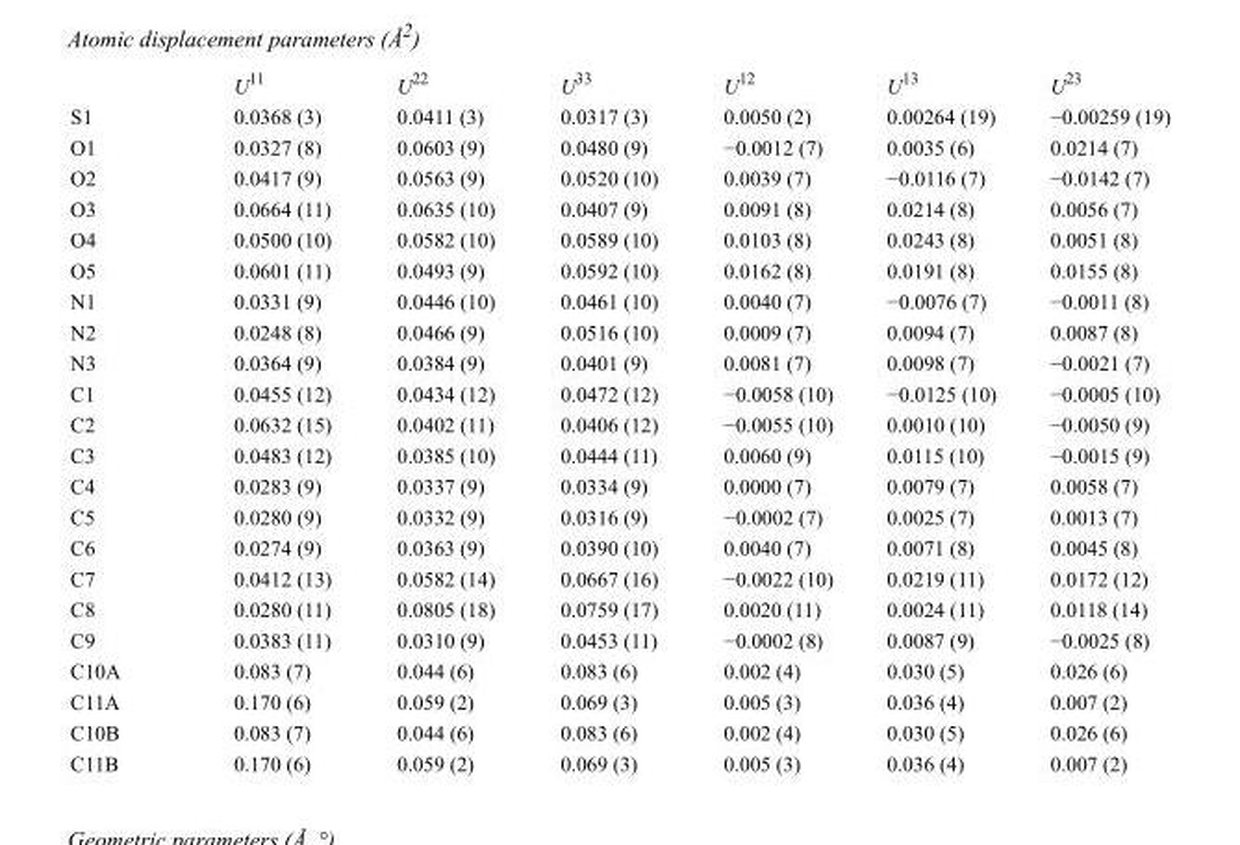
<table><thead><tr><td></td><td>U<sup>11</sup></td><td>U<sup>22</sup></td><td>U<sup>33</sup></td><td>U<sup>12</sup></td><td>U<sup>13</sup></td><td>U<sup>23</sup></td></tr></thead><tbody><tr><td>S1</td><td>0.0368 (3)</td><td>0.0411 (3)</td><td>0.0317 (3)</td><td>0.0050 (2)</td><td>0.00264 (19)</td><td>−0.00259 (19)</td></tr><tr><td>O1</td><td>0.0327 (8)</td><td>0.0603 (9)</td><td>0.0480 (9)</td><td>−0.0012 (7)</td><td>0.0035 (6)</td><td>0.0214 (7)</td></tr><tr><td>O2</td><td>0.0417 (9)</td><td>0.0563 (9)</td><td>0.0520 (10)</td><td>0.0039 (7)</td><td>−0.0116 (7)</td><td>−0.0142 (7)</td></tr><tr><td>O3</td><td>0.0664 (11)</td><td>0.0635 (10)</td><td>0.0407 (9)</td><td>0.0091 (8)</td><td>0.0214 (8)</td><td>0.0056 (7)</td></tr><tr><td>O4</td><td>0.0500 (10)</td><td>0.0582 (10)</td><td>0.0589 (10)</td><td>0.0103 (8)</td><td>0.0243 (8)</td><td>0.0051 (8)</td></tr><tr><td>O5</td><td>0.0601 (11)</td><td>0.0493 (9)</td><td>0.0592 (10)</td><td>0.0162 (8)</td><td>0.0191 (8)</td><td>0.0155 (8)</td></tr><tr><td>N1</td><td>0.0331 (9)</td><td>0.0446 (10)</td><td>0.0461 (10)</td><td>0.0040 (7)</td><td>−0.0076 (7)</td><td>−0.0011 (8)</td></tr><tr><td>N2</td><td>0.0248 (8)</td><td>0.0466 (9)</td><td>0.0516 (10)</td><td>0.0009 (7)</td><td>0.0094 (7)</td><td>0.0087 (8)</td></tr><tr><td>N3</td><td>0.0364 (9)</td><td>0.0384 (9)</td><td>0.0401 (9)</td><td>0.0081 (7)</td><td>0.0098 (7)</td><td>−0.0021 (7)</td></tr><tr><td>C1</td><td>0.0455 (12)</td><td>0.0434 (12)</td><td>0.0472 (12)</td><td>−0.0058 (10)</td><td>−0.0125 (10)</td><td>−0.0005 (10)</td></tr><tr><td>C2</td><td>0.0632 (15)</td><td>0.0402 (11)</td><td>0.0406 (12)</td><td>−0.0055 (10)</td><td>0.0010 (10)</td><td>−0.0050 (9)</td></tr><tr><td>C3</td><td>0.0483 (12)</td><td>0.0385 (10)</td><td>0.0444 (11)</td><td>0.0060 (9)</td><td>0.0115 (10)</td><td>−0.0015 (9)</td></tr><tr><td>C4</td><td>0.0283 (9)</td><td>0.0337 (9)</td><td>0.0334 (9)</td><td>0.0000 (7)</td><td>0.0079 (7)</td><td>0.0058 (7)</td></tr><tr><td>C5</td><td>0.0280 (9)</td><td>0.0332 (9)</td><td>0.0316 (9)</td><td>−0.0002 (7)</td><td>0.0025 (7)</td><td>0.0013 (7)</td></tr><tr><td>C6</td><td>0.0274 (9)</td><td>0.0363 (9)</td><td>0.0390 (10)</td><td>0.0040 (7)</td><td>0.0071 (8)</td><td>0.0045 (8)</td></tr><tr><td>C7</td><td>0.0412 (13)</td><td>0.0582 (14)</td><td>0.0667 (16)</td><td>−0.0022 (10)</td><td>0.0219 (11)</td><td>0.0172 (12)</td></tr><tr><td>C8</td><td>0.0280 (11)</td><td>0.0805 (18)</td><td>0.0759 (17)</td><td>0.0020 (11)</td><td>0.0024 (11)</td><td>0.0118 (14)</td></tr><tr><td>C9</td><td>0.0383 (11)</td><td>0.0310 (9)</td><td>0.0453 (11)</td><td>−0.0002 (8)</td><td>0.0087 (9)</td><td>−0.0025 (8)</td></tr><tr><td>C10A</td><td>0.083 (7)</td><td>0.044 (6)</td><td>0.083 (6)</td><td>0.002 (4)</td><td>0.030 (5)</td><td>0.026 (6)</td></tr><tr><td>C11A</td><td>0.170 (6)</td><td>0.059 (2)</td><td>0.069 (3)</td><td>0.005 (3)</td><td>0.036 (4)</td><td>0.007 (2)</td></tr><tr><td>C10B</td><td>0.083 (7)</td><td>0.044 (6)</td><td>0.083 (6)</td><td>0.002 (4)</td><td>0.030 (5)</td><td>0.026 (6)</td></tr><tr><td>C11B</td><td>0.170 (6)</td><td>0.059 (2)</td><td>0.069 (3)</td><td>0.005 (3)</td><td>0.036 (4)</td><td>0.007 (2)</td></tr></tbody></table>